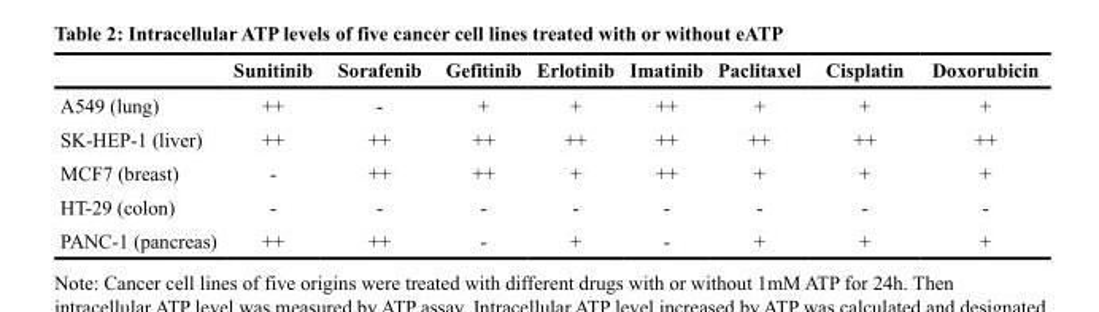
<table><thead><tr><td></td><td>Sunitinib</td><td>Sorafenib</td><td>Gefitinib</td><td>Erlotinib</td><td>Imatinib</td><td>Paclitaxel</td><td>Cisplatin</td><td>Doxorubicin</td></tr></thead><tbody><tr><td>A549 (lung)</td><td>++</td><td>-</td><td>+</td><td>+</td><td>++</td><td>+</td><td>+</td><td>+</td></tr><tr><td>SK-HEP-1 (liver)</td><td>++</td><td>++</td><td>++</td><td>++</td><td>++</td><td>++</td><td>++</td><td>++</td></tr><tr><td>MCF7 (breast)</td><td>-</td><td>++</td><td>++</td><td>+</td><td>++</td><td>+</td><td>+</td><td>+</td></tr><tr><td>HT-29 (colon)</td><td>-</td><td>-</td><td>-</td><td>-</td><td>-</td><td>-</td><td>-</td><td>-</td></tr><tr><td>PANC-1 (pancreas)</td><td>++</td><td>++</td><td>-</td><td>+</td><td>-</td><td>+</td><td>+</td><td>+</td></tr></tbody></table>